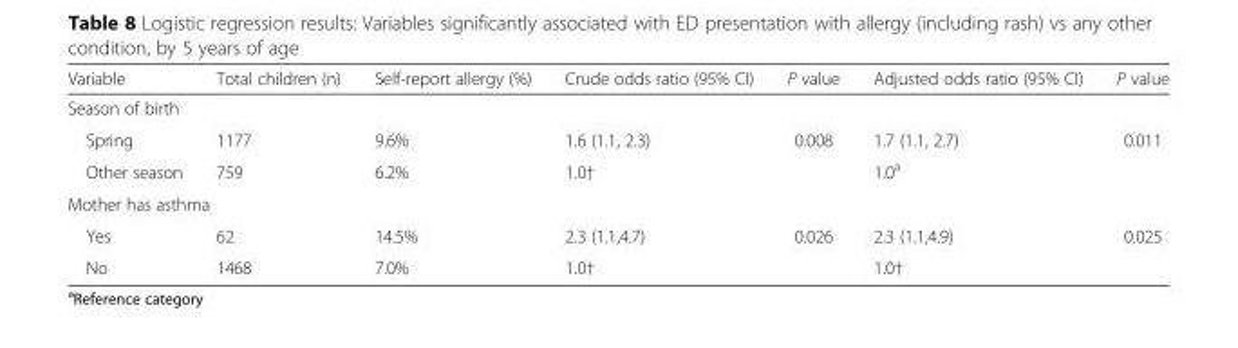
<table><thead><tr><td>Variable</td><td>Total children (n)</td><td>Self-report allergy (%)</td><td>Crude odds ratio (95% CI)</td><td>P value</td><td>Adjusted odds ratio (95% CI)</td><td>P value</td></tr></thead><tbody><tr><td colspan="7">Season of birth</td></tr><tr><td>Spring</td><td>1177</td><td>9.6%</td><td>1.6 (1.1, 2.3)</td><td>0.008</td><td>1.7 (1.1, 2.7)</td><td>0.011</td></tr><tr><td>Other season</td><td>759</td><td>6.2%</td><td>1.0†</td><td></td><td>1.0<sup>a</sup></td><td></td></tr><tr><td colspan="7">Mother has asthma</td></tr><tr><td>Yes</td><td>62</td><td>14.5%</td><td>2.3 (1.1,4.7)</td><td>0.026</td><td>2.3 (1.1,4.9)</td><td>0.025</td></tr><tr><td>No</td><td>1468</td><td>7.0%</td><td>1.0†</td><td></td><td>1.0†</td><td></td></tr></tbody></table>